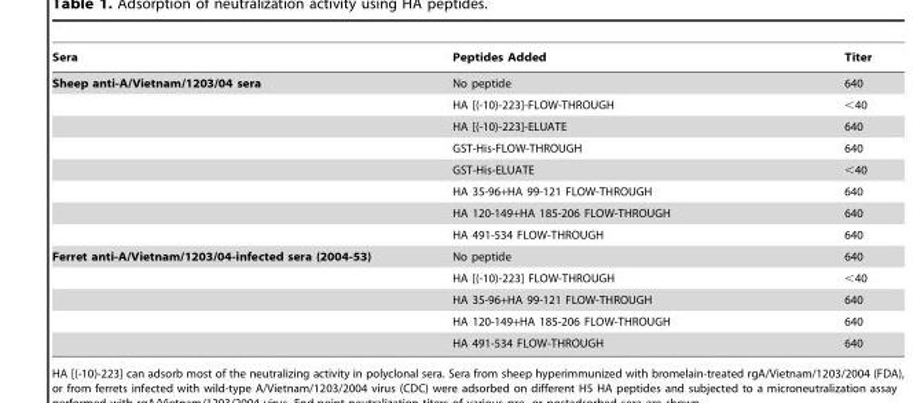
<table><thead><tr><td>Sera</td><td>Peptides Added</td><td>Titer</td></tr></thead><tbody><tr><td rowspan="8">Sheep anti-A/Vietnam/1203/04 sera</td><td>No peptide</td><td>640</td></tr><tr><td>HA [(-10)-223]-FLOW-THROUGH</td><td>&lt;40</td></tr><tr><td>HA [(-10)-223]-ELUATE</td><td>640</td></tr><tr><td>GST-His-FLOW-THROUGH</td><td>640</td></tr><tr><td>GST-His-ELUATE</td><td>&lt;40</td></tr><tr><td>HA 35-96+HA 99-121 FLOW-THROUGH</td><td>640</td></tr><tr><td>HA 120-149+HA 185-206 FLOW-THROUGH</td><td>640</td></tr><tr><td>HA 491-534 FLOW-THROUGH</td><td>640</td></tr><tr><td rowspan="5">Ferret anti-A/Vietnam/1203/04-infected sera (2004-53)</td><td>No peptide</td><td>640</td></tr><tr><td>HA [(-10)-223] FLOW-THROUGH</td><td>&lt;40</td></tr><tr><td>HA 35-96+HA 99-121 FLOW-THROUGH</td><td>640</td></tr><tr><td>HA 120-149+HA 185-206 FLOW-THROUGH</td><td>640</td></tr><tr><td>HA 491-534 FLOW-THROUGH</td><td>640</td></tr></tbody></table>